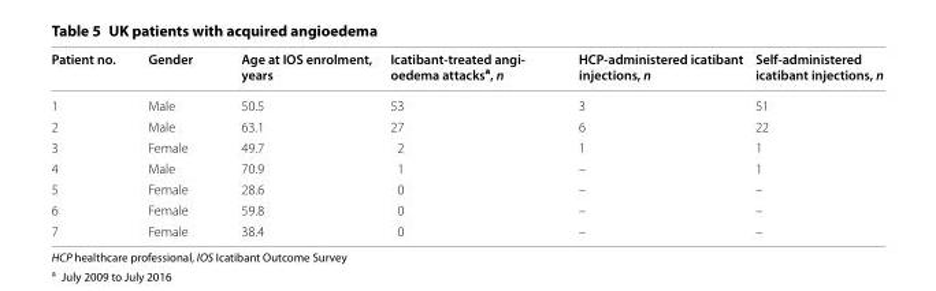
<table><thead><tr><td>Patient no.</td><td>Gender</td><td>Age at IOS enrolment, years</td><td>Icatibant-treated angi- oedema attacksa, n</td><td>HCP-administered icatibant injections, n</td><td>Self-administered icatibant injections, n</td></tr></thead><tbody><tr><td>1</td><td>Male</td><td>50.5</td><td>53</td><td>3</td><td>51</td></tr><tr><td>2</td><td>Male</td><td>63.1</td><td>27</td><td>6</td><td>22</td></tr><tr><td>3</td><td>Female</td><td>49.7</td><td>2</td><td>1</td><td>1</td></tr><tr><td>4</td><td>Male</td><td>70.9</td><td>1</td><td>–</td><td>1</td></tr><tr><td>5</td><td>Female</td><td>28.6</td><td>0</td><td>–</td><td>–</td></tr><tr><td>6</td><td>Female</td><td>59.8</td><td>0</td><td>–</td><td>–</td></tr><tr><td>7</td><td>Female</td><td>38.4</td><td>0</td><td>–</td><td>–</td></tr></tbody></table>